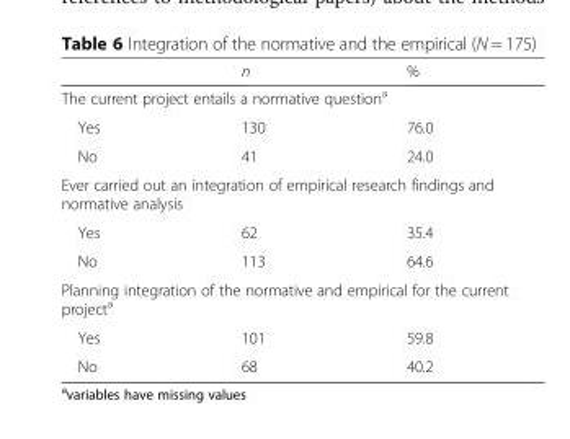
<table><thead><tr><td></td><td>n</td><td>%</td></tr></thead><tbody><tr><td colspan="3">The current project entails a normative question<sup>a</sup></td></tr><tr><td>Yes</td><td>130</td><td>76.0</td></tr><tr><td>No</td><td>41</td><td>24.0</td></tr><tr><td colspan="3">Ever carried out an integration of empirical research findings and normative analysis</td></tr><tr><td>Yes</td><td>62</td><td>35.4</td></tr><tr><td>No</td><td>113</td><td>64.6</td></tr><tr><td colspan="3">Planning integration of the normative and empirical for the current project<sup>a</sup></td></tr><tr><td>Yes</td><td>101</td><td>59.8</td></tr><tr><td>No</td><td>68</td><td>40.2</td></tr></tbody></table>